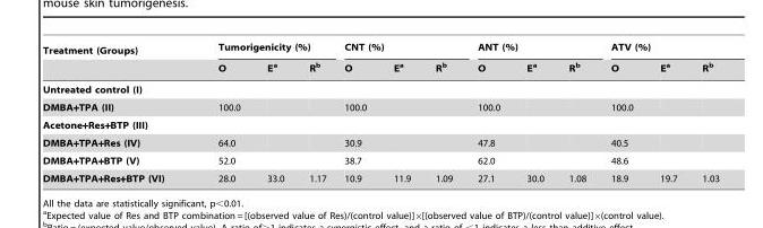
<table><thead><tr><td rowspan="2">Treatment (Groups)</td><td colspan="3">Tumorigenicity (%)</td><td colspan="3">CNT (%)</td><td colspan="3">ANT (%)</td><td colspan="3">ATV (%)</td></tr><tr><td>O</td><td>Ea</td><td>Rb</td><td>O</td><td>Ea</td><td>Rb</td><td>O</td><td>Ea</td><td>Rb</td><td>O</td><td>Ea</td><td>Rb</td></tr></thead><tbody><tr><td colspan="13">Untreated control (I)</td></tr><tr><td>DMBA+TPA (II)</td><td>100.0</td><td></td><td></td><td>100.0</td><td></td><td></td><td>100.0</td><td></td><td></td><td>100.0</td><td></td><td></td></tr><tr><td colspan="13">Acetone+Res+BTP (III)</td></tr><tr><td>DMBA+TPA+Res (IV)</td><td>64.0</td><td></td><td></td><td>30.9</td><td></td><td></td><td>47.8</td><td></td><td></td><td>40.5</td><td></td><td></td></tr><tr><td>DMBA+TPA+BTP (V)</td><td>52.0</td><td></td><td></td><td>38.7</td><td></td><td></td><td>62.0</td><td></td><td></td><td>48.6</td><td></td><td></td></tr><tr><td>DMBA+TPA+Res+BTP (VI)</td><td>28.0</td><td>33.0</td><td>1.17</td><td>10.9</td><td>11.9</td><td>1.09</td><td>27.1</td><td>30.0</td><td>1.08</td><td>18.9</td><td>19.7</td><td>1.03</td></tr></tbody></table>